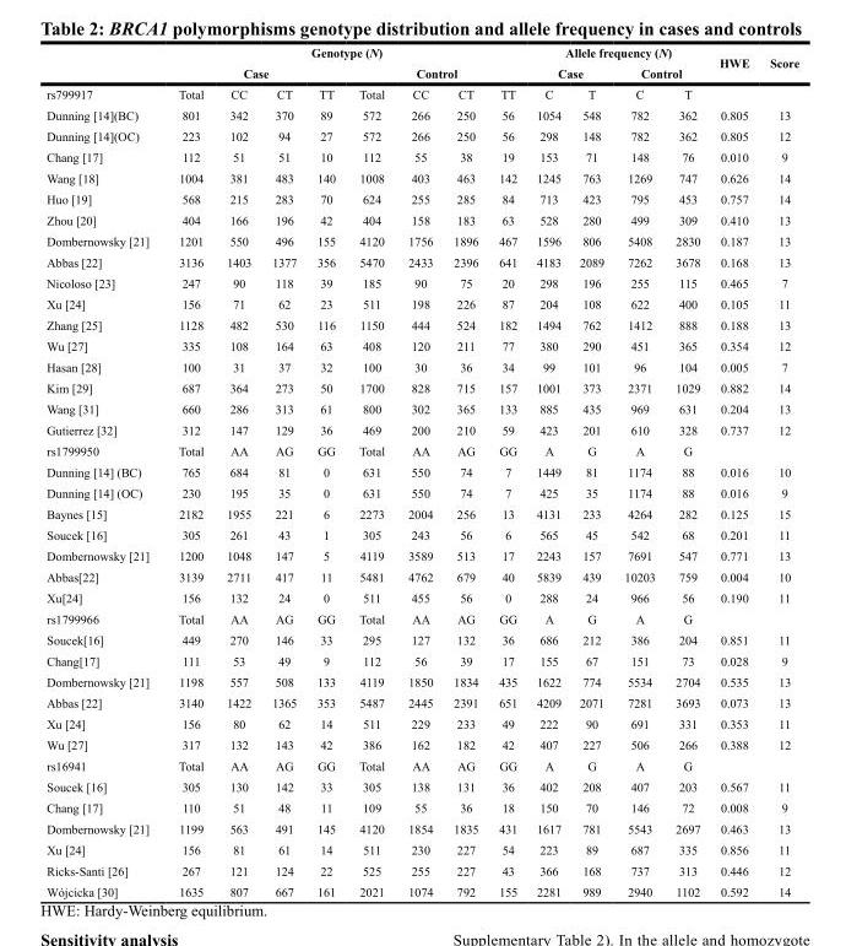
<table><thead><tr><td rowspan="3">rs799917</td><td colspan="8">Genotype (N)</td><td colspan="4">Allele frequency (N)</td><td rowspan="3">HWE</td><td rowspan="3">Score</td></tr><tr><td colspan="4">Case</td><td colspan="4">Control</td><td colspan="2">Case</td><td colspan="2">Control</td></tr><tr><td>Total</td><td>CC</td><td>CT</td><td>TT</td><td>Total</td><td>CC</td><td>CT</td><td>TT</td><td>C</td><td>T</td><td>C</td><td>T</td></tr></thead><tbody><tr><td>Dunning [14](BC)</td><td>801</td><td>342</td><td>370</td><td>89</td><td>572</td><td>266</td><td>250</td><td>56</td><td>1054</td><td>548</td><td>782</td><td>362</td><td>0.805</td><td>13</td></tr><tr><td>Dunning [14](OC)</td><td>223</td><td>102</td><td>94</td><td>27</td><td>572</td><td>266</td><td>250</td><td>56</td><td>298</td><td>148</td><td>782</td><td>362</td><td>0.805</td><td>12</td></tr><tr><td>Chang [17]</td><td>112</td><td>51</td><td>51</td><td>10</td><td>112</td><td>55</td><td>38</td><td>19</td><td>153</td><td>71</td><td>148</td><td>76</td><td>0.010</td><td>9</td></tr><tr><td>Wang [18]</td><td>1004</td><td>381</td><td>483</td><td>140</td><td>1008</td><td>403</td><td>463</td><td>142</td><td>1245</td><td>763</td><td>1269</td><td>747</td><td>0.626</td><td>14</td></tr><tr><td>Huo [19]</td><td>568</td><td>215</td><td>283</td><td>70</td><td>624</td><td>255</td><td>285</td><td>84</td><td>713</td><td>423</td><td>795</td><td>453</td><td>0.757</td><td>14</td></tr><tr><td>Zhou [20]</td><td>404</td><td>166</td><td>196</td><td>42</td><td>404</td><td>158</td><td>183</td><td>63</td><td>528</td><td>280</td><td>499</td><td>309</td><td>0.410</td><td>13</td></tr><tr><td>Dombernowsky [21]</td><td>1201</td><td>550</td><td>496</td><td>155</td><td>4120</td><td>1756</td><td>1896</td><td>467</td><td>1596</td><td>806</td><td>5408</td><td>2830</td><td>0.187</td><td>13</td></tr><tr><td>Abbas [22]</td><td>3136</td><td>1403</td><td>1377</td><td>356</td><td>5470</td><td>2433</td><td>2396</td><td>641</td><td>4183</td><td>2089</td><td>7262</td><td>3678</td><td>0.168</td><td>13</td></tr><tr><td>Nicoloso [23]</td><td>247</td><td>90</td><td>118</td><td>39</td><td>185</td><td>90</td><td>75</td><td>20</td><td>298</td><td>196</td><td>255</td><td>115</td><td>0.465</td><td>7</td></tr><tr><td>Xu [24]</td><td>156</td><td>71</td><td>62</td><td>23</td><td>511</td><td>198</td><td>226</td><td>87</td><td>204</td><td>108</td><td>622</td><td>400</td><td>0.105</td><td>11</td></tr><tr><td>Zhang [25]</td><td>1128</td><td>482</td><td>530</td><td>116</td><td>1150</td><td>444</td><td>524</td><td>182</td><td>1494</td><td>762</td><td>1412</td><td>888</td><td>0.188</td><td>13</td></tr><tr><td>Wu [27]</td><td>335</td><td>108</td><td>164</td><td>63</td><td>408</td><td>120</td><td>211</td><td>77</td><td>380</td><td>290</td><td>451</td><td>365</td><td>0.354</td><td>12</td></tr><tr><td>Hasan [28]</td><td>100</td><td>31</td><td>37</td><td>32</td><td>100</td><td>30</td><td>36</td><td>34</td><td>99</td><td>101</td><td>96</td><td>104</td><td>0.005</td><td>7</td></tr><tr><td>Kim [29]</td><td>687</td><td>364</td><td>273</td><td>50</td><td>1700</td><td>828</td><td>715</td><td>157</td><td>1001</td><td>373</td><td>2371</td><td>1029</td><td>0.882</td><td>14</td></tr><tr><td>Wang [31]</td><td>660</td><td>286</td><td>313</td><td>61</td><td>800</td><td>302</td><td>365</td><td>133</td><td>885</td><td>435</td><td>969</td><td>631</td><td>0.204</td><td>13</td></tr><tr><td>Gutierrez [32]</td><td>312</td><td>147</td><td>129</td><td>36</td><td>469</td><td>200</td><td>210</td><td>59</td><td>423</td><td>201</td><td>610</td><td>328</td><td>0.737</td><td>12</td></tr><tr><td>rs1799950</td><td>Total</td><td>AA</td><td>AG</td><td>GG</td><td>Total</td><td>AA</td><td>AG</td><td>GG</td><td>A</td><td>G</td><td>A</td><td>G</td><td></td><td></td></tr><tr><td>Dunning [14] (BC)</td><td>765</td><td>684</td><td>81</td><td>0</td><td>631</td><td>550</td><td>74</td><td>7</td><td>1449</td><td>81</td><td>1174</td><td>88</td><td>0.016</td><td>10</td></tr><tr><td>Dunning [14] (OC)</td><td>230</td><td>195</td><td>35</td><td>0</td><td>631</td><td>550</td><td>74</td><td>7</td><td>425</td><td>35</td><td>1174</td><td>88</td><td>0.016</td><td>9</td></tr><tr><td>Baynes [15]</td><td>2182</td><td>1955</td><td>221</td><td>6</td><td>2273</td><td>2004</td><td>256</td><td>13</td><td>4131</td><td>233</td><td>4264</td><td>282</td><td>0.125</td><td>15</td></tr><tr><td>Soucek [16]</td><td>305</td><td>261</td><td>43</td><td>1</td><td>305</td><td>243</td><td>56</td><td>6</td><td>565</td><td>45</td><td>542</td><td>68</td><td>0.201</td><td>11</td></tr><tr><td>Dombernowsky [21]</td><td>1200</td><td>1048</td><td>147</td><td>5</td><td>4119</td><td>3589</td><td>513</td><td>17</td><td>2243</td><td>157</td><td>7691</td><td>547</td><td>0.771</td><td>13</td></tr><tr><td>Abbas[22]</td><td>3139</td><td>2711</td><td>417</td><td>11</td><td>5481</td><td>4762</td><td>679</td><td>40</td><td>5839</td><td>439</td><td>10203</td><td>759</td><td>0.004</td><td>10</td></tr><tr><td>Xu[24]</td><td>156</td><td>132</td><td>24</td><td>0</td><td>511</td><td>455</td><td>56</td><td>0</td><td>288</td><td>24</td><td>966</td><td>56</td><td>0.190</td><td>11</td></tr><tr><td>rs1799966</td><td>Total</td><td>AA</td><td>AG</td><td>GG</td><td>Total</td><td>AA</td><td>AG</td><td>GG</td><td>A</td><td>G</td><td>A</td><td>G</td><td></td><td></td></tr><tr><td>Soucek[16]</td><td>449</td><td>270</td><td>146</td><td>33</td><td>295</td><td>127</td><td>132</td><td>36</td><td>686</td><td>212</td><td>386</td><td>204</td><td>0.851</td><td>11</td></tr><tr><td>Chang[17]</td><td>111</td><td>53</td><td>49</td><td>9</td><td>112</td><td>56</td><td>39</td><td>17</td><td>155</td><td>67</td><td>151</td><td>73</td><td>0.028</td><td>9</td></tr><tr><td>Dombernowsky [21]</td><td>1198</td><td>557</td><td>508</td><td>133</td><td>4119</td><td>1850</td><td>1834</td><td>435</td><td>1622</td><td>774</td><td>5534</td><td>2704</td><td>0.535</td><td>13</td></tr><tr><td>Abbas [22]</td><td>3140</td><td>1422</td><td>1365</td><td>353</td><td>5487</td><td>2445</td><td>2391</td><td>651</td><td>4209</td><td>2071</td><td>7281</td><td>3693</td><td>0.073</td><td>13</td></tr><tr><td>Xu [24]</td><td>156</td><td>80</td><td>62</td><td>14</td><td>511</td><td>229</td><td>233</td><td>49</td><td>222</td><td>90</td><td>691</td><td>331</td><td>0.353</td><td>11</td></tr><tr><td>Wu [27]</td><td>317</td><td>132</td><td>143</td><td>42</td><td>386</td><td>162</td><td>182</td><td>42</td><td>407</td><td>227</td><td>506</td><td>266</td><td>0.388</td><td>12</td></tr><tr><td>rs16941</td><td>Total</td><td>AA</td><td>AG</td><td>GG</td><td>Total</td><td>AA</td><td>AG</td><td>GG</td><td>A</td><td>G</td><td>A</td><td>G</td><td></td><td></td></tr><tr><td>Soucek [16]</td><td>305</td><td>130</td><td>142</td><td>33</td><td>305</td><td>138</td><td>131</td><td>36</td><td>402</td><td>208</td><td>407</td><td>203</td><td>0.567</td><td>11</td></tr><tr><td>Chang [17]</td><td>110</td><td>51</td><td>48</td><td>11</td><td>109</td><td>55</td><td>36</td><td>18</td><td>150</td><td>70</td><td>146</td><td>72</td><td>0.008</td><td>9</td></tr><tr><td>Dombernowsky [21]</td><td>1199</td><td>563</td><td>491</td><td>145</td><td>4120</td><td>1854</td><td>1835</td><td>431</td><td>1617</td><td>781</td><td>5543</td><td>2697</td><td>0.463</td><td>13</td></tr><tr><td>Xu [24]</td><td>156</td><td>81</td><td>61</td><td>14</td><td>511</td><td>230</td><td>227</td><td>54</td><td>223</td><td>89</td><td>687</td><td>335</td><td>0.856</td><td>11</td></tr><tr><td>Ricks-Santi [26]</td><td>267</td><td>121</td><td>124</td><td>22</td><td>525</td><td>255</td><td>227</td><td>43</td><td>366</td><td>168</td><td>737</td><td>313</td><td>0.446</td><td>12</td></tr><tr><td>Wójcicka [30]</td><td>1635</td><td>807</td><td>667</td><td>161</td><td>2021</td><td>1074</td><td>792</td><td>155</td><td>2281</td><td>989</td><td>2940</td><td>1102</td><td>0.592</td><td>14</td></tr></tbody></table>